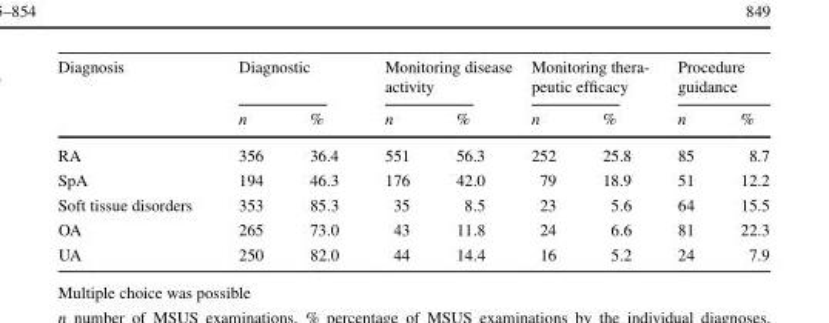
<table><thead><tr><td rowspan="2">Diagnosis</td><td colspan="2">Diagnostic</td><td colspan="2">Monitoring disease activity</td><td colspan="2">Monitoring thera- peutic efficacy</td><td colspan="2">Procedure guidance</td></tr><tr><td>n</td><td>%</td><td>n</td><td>%</td><td>n</td><td>%</td><td>n</td><td>%</td></tr></thead><tbody><tr><td>RA</td><td>356</td><td>36.4</td><td>551</td><td>56.3</td><td>252</td><td>25.8</td><td>85</td><td>8.7</td></tr><tr><td>SpA</td><td>194</td><td>46.3</td><td>176</td><td>42.0</td><td>79</td><td>18.9</td><td>51</td><td>12.2</td></tr><tr><td>Soft tissue disorders</td><td>353</td><td>85.3</td><td>35</td><td>8.5</td><td>23</td><td>5.6</td><td>64</td><td>15.5</td></tr><tr><td>OA</td><td>265</td><td>73.0</td><td>43</td><td>11.8</td><td>24</td><td>6.6</td><td>81</td><td>22.3</td></tr><tr><td>UA</td><td>250</td><td>82.0</td><td>44</td><td>14.4</td><td>16</td><td>5.2</td><td>24</td><td>7.9</td></tr></tbody></table>